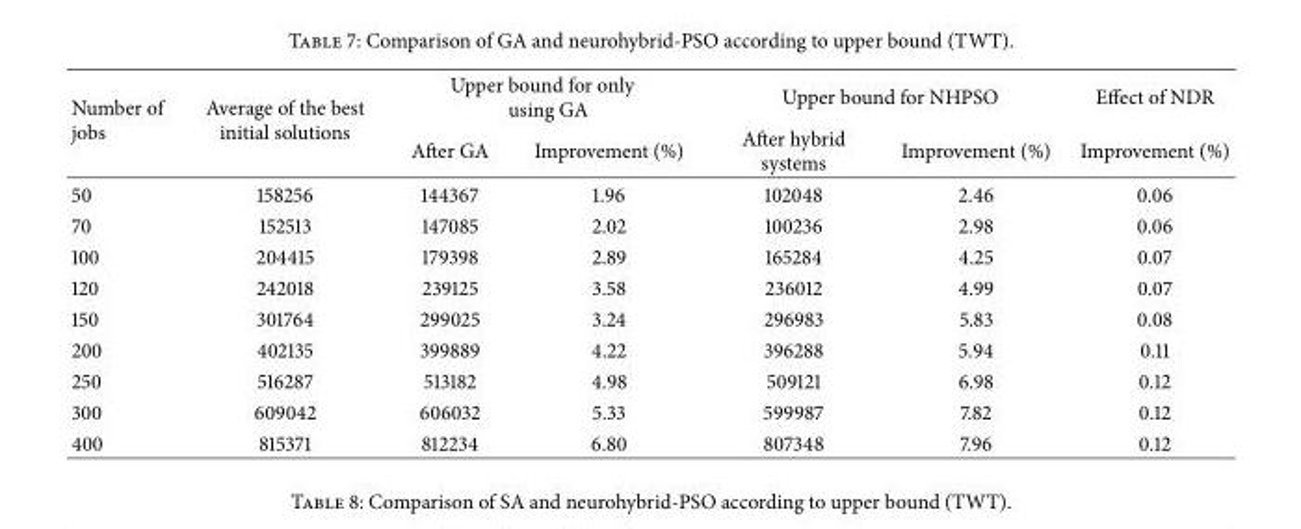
<table><thead><tr><td rowspan="2">Number of jobs</td><td rowspan="2">Average of the best initial solutions</td><td colspan="2">Upper bound for only using GA</td><td colspan="2">Upper bound for NHPSO</td><td rowspan="2">Effect of NDR Improvement (%)</td></tr><tr><td>After GA</td><td>Improvement (%)</td><td>After hybrid systems</td><td>Improvement (%)</td></tr></thead><tbody><tr><td>50</td><td>158256</td><td>144367</td><td>1.96</td><td>102048</td><td>2.46</td><td>0.06</td></tr><tr><td>70</td><td>152513</td><td>147085</td><td>2.02</td><td>100236</td><td>2.98</td><td>0.06</td></tr><tr><td>100</td><td>204415</td><td>179398</td><td>2.89</td><td>165284</td><td>4.25</td><td>0.07</td></tr><tr><td>120</td><td>242018</td><td>239125</td><td>3.58</td><td>236012</td><td>4.99</td><td>0.07</td></tr><tr><td>150</td><td>301764</td><td>299025</td><td>3.24</td><td>296983</td><td>5.83</td><td>0.08</td></tr><tr><td>200</td><td>402135</td><td>399889</td><td>4.22</td><td>396288</td><td>5.94</td><td>0.11</td></tr><tr><td>250</td><td>516287</td><td>513182</td><td>4.98</td><td>509121</td><td>6.98</td><td>0.12</td></tr><tr><td>300</td><td>609042</td><td>606032</td><td>5.33</td><td>599987</td><td>7.82</td><td>0.12</td></tr><tr><td>400</td><td>815371</td><td>812234</td><td>6.80</td><td>807348</td><td>7.96</td><td>0.12</td></tr></tbody></table>